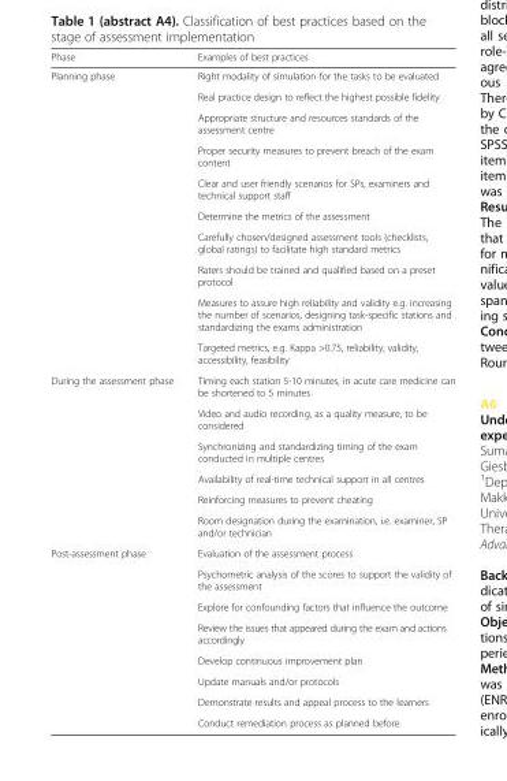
<table><thead><tr><td>Phase</td><td>Examples of best practices</td></tr></thead><tbody><tr><td rowspan="10">Planning phase</td><td>Right modality of simulation for the tasks to be evaluated</td></tr><tr><td>Real practice design to reflect the highest possible fidelity</td></tr><tr><td>Appropriate structure and resources standards of the assessment centre</td></tr><tr><td>Proper security measures to prevent breach of the exam content</td></tr><tr><td>Clear and user friendly scenarios for SPs, examiners and technical support staff</td></tr><tr><td>Determine the metrics of the assessment</td></tr><tr><td>Carefully chosen/designed assessment tools (checklists, global ratings) to facilitate high standard metrics</td></tr><tr><td>Raters should be trained and qualified based on a preset protocol</td></tr><tr><td>Measures to assure high reliability and validity e.g. increasing the number of scenarios, designing task-specific stations and standardizing the exams administration</td></tr><tr><td>Targeted metrics, e.g. Kappa &gt;0.75, reliability, validity, accessibility, feasibility</td></tr><tr><td rowspan="6">During the assessment phase</td><td>Timing each station 5-10 minutes, in acute care medicine can be shortened to 5 minutes</td></tr><tr><td>Video and audio recording, as a quality measure, to be considered</td></tr><tr><td>Synchronizing and standardizing timing of the exam conducted in multiple centres</td></tr><tr><td>Availability of real-time technical support in all centres</td></tr><tr><td>Reinforcing measures to prevent cheating</td></tr><tr><td>Room designation during the examination, i.e. examiner, SP and/or technician</td></tr><tr><td rowspan="8">Post-assessment phase</td><td>Evaluation of the assessment process</td></tr><tr><td>Psychometric analysis of the scores to support the validity of the assessment</td></tr><tr><td>Explore for confounding factors that influence the outcome</td></tr><tr><td>Review the issues that appeared during the exam and actions accordingly</td></tr><tr><td>Develop continuous improvement plan</td></tr><tr><td>Update manuals and/or protocols</td></tr><tr><td>Demonstrate results and appeal process to the learners</td></tr><tr><td>Conduct remediation process as planned before</td></tr></tbody></table>